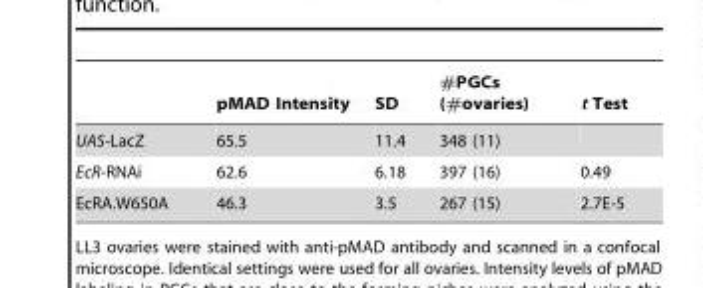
<table><thead><tr><td></td><td>pMAD Intensity</td><td>SD</td><td>#PGCs (#ovaries)</td><td>t Test</td></tr></thead><tbody><tr><td>UAS-LacZ</td><td>65.5</td><td>11.4</td><td>348 (11)</td><td></td></tr><tr><td>EcR-RNAi</td><td>62.6</td><td>6.18</td><td>397 (16)</td><td>0.49</td></tr><tr><td>EcRA.W650A</td><td>46.3</td><td>3.5</td><td>267 (15)</td><td>2.7E-5</td></tr></tbody></table>